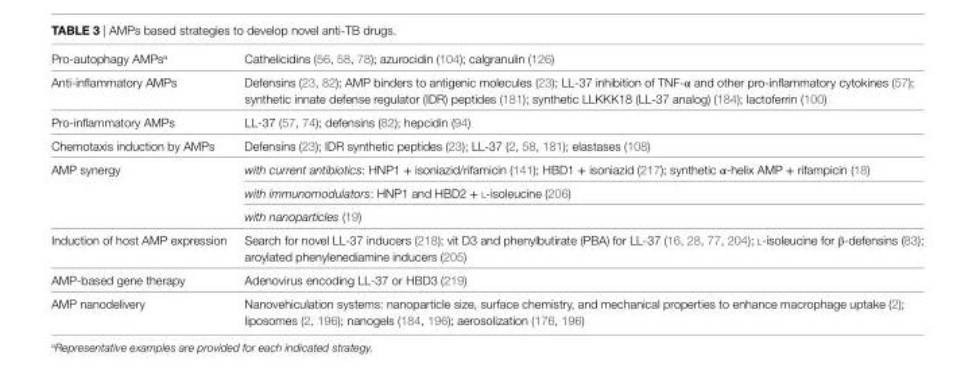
<table><tbody><tr><td>Pro-autophagy AMPs<sup>a</sup></td><td>Cathelicidins (56, 58, 78); azurocidin (104); calgranulin (126)</td></tr><tr><td>Anti-inflammatory AMPs</td><td>Defensins (23, 82); AMP binders to antigenic molecules (23); LL-37 inhibition of TNF-α and other pro-inflammatory cytokines (57); synthetic innate defense regulator (IDR) peptides (181); synthetic LLKKK18 (LL-37 analog) (184); lactoferrin (100)</td></tr><tr><td>Pro-inflammatory AMPs</td><td>LL-37 (57, 74); defensins (82); hepcidin (94)</td></tr><tr><td>Chemotaxis induction by AMPs</td><td>Defensins (23); IDR synthetic peptides (23); LL-37 (2, 58, 181); elastases (108)</td></tr><tr><td rowspan="3">AMP synergy</td><td>with current antibiotics: HNP1 + isoniazid/rifamicin (141); HBD1 + isoniazid (217); synthetic α-helix AMP + rifampicin (18)</td></tr><tr><td>with immunomodulators: HNP1 and HBD2 + l-isoleucine (206)</td></tr><tr><td>with nanoparticles (19)</td></tr><tr><td>Induction of host AMP expression</td><td>Search for novel LL-37 inducers (218); vit D3 and phenylbutirate (PBA) for LL-37 (16, 28, 77, 204); l-isoleucine for β-defensins (83); aroylated phenylenediamine inducers (205)</td></tr><tr><td>AMP-based gene therapy</td><td>Adenovirus encoding LL-37 or HBD3 (219)</td></tr><tr><td>AMP nanodelivery</td><td>Nanovehiculation systems: nanoparticle size, surface chemistry, and mechanical properties to enhance macrophage uptake (2); liposomes (2, 196); nanogels (184, 196); aerosolization (176, 196)</td></tr></tbody></table>